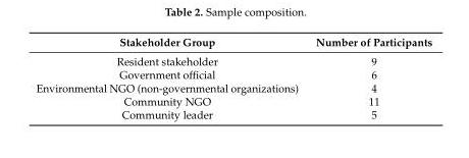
<table><thead><tr><td>Stakeholder Group</td><td>Number of Participants</td></tr></thead><tbody><tr><td>Resident stakeholder</td><td>9</td></tr><tr><td>Government official</td><td>6</td></tr><tr><td>Environmental NGO (non-governmental organizations)</td><td>4</td></tr><tr><td>Community NGO</td><td>11</td></tr><tr><td>Community leader</td><td>5</td></tr></tbody></table>